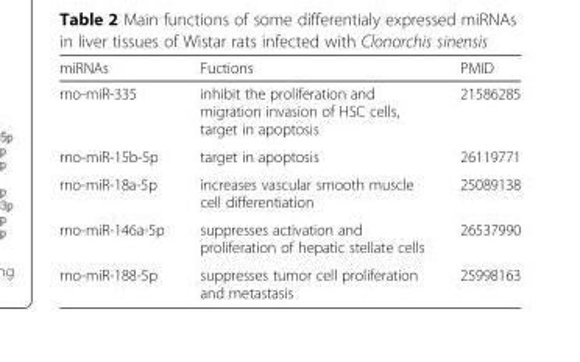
<table><thead><tr><td>miRNAs</td><td>Fuctions</td><td>PMID</td></tr></thead><tbody><tr><td>rno-miR-335</td><td>inhibit the proliferation and migration invasion of HSC cells, target in apoptosis</td><td>21586285</td></tr><tr><td>rno-miR-15b-5p</td><td>target in apoptosis</td><td>26119771</td></tr><tr><td>rno-miR-18a-5p</td><td>increases vascular smooth muscle cell differentiation</td><td>25089138</td></tr><tr><td>rno-miR-146a-5p</td><td>suppresses activation and proliferation of hepatic stellate cells</td><td>26537990</td></tr><tr><td>rno-miR-188-5p</td><td>suppresses tumor cell proliferation and metastasis</td><td>25998163</td></tr></tbody></table>